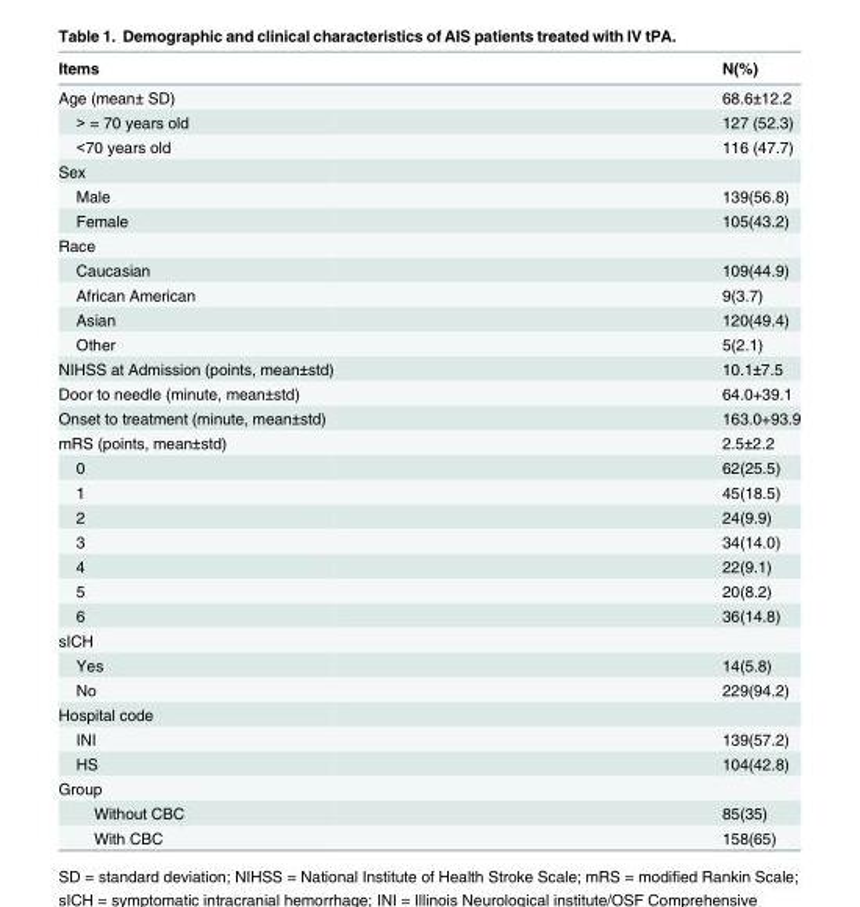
<table><thead><tr><td>Items</td><td>N(%)</td></tr></thead><tbody><tr><td>Age (mean± SD)</td><td>68.6±12.2</td></tr><tr><td>&gt; = 70 years old</td><td>127 (52.3)</td></tr><tr><td>&lt;70 years old</td><td>116 (47.7)</td></tr><tr><td colspan="2">Sex</td></tr><tr><td>Male</td><td>139(56.8)</td></tr><tr><td>Female</td><td>105(43.2)</td></tr><tr><td colspan="2">Race</td></tr><tr><td>Caucasian</td><td>109(44.9)</td></tr><tr><td>African American</td><td>9(3.7)</td></tr><tr><td>Asian</td><td>120(49.4)</td></tr><tr><td>Other</td><td>5(2.1)</td></tr><tr><td>NIHSS at Admission (points, mean±std)</td><td>10.1±7.5</td></tr><tr><td>Door to needle (minute, mean±std)</td><td>64.0+39.1</td></tr><tr><td>Onset to treatment (minute, mean±std)</td><td>163.0+93.9</td></tr><tr><td>mRS (points, mean±std)</td><td>2.5±2.2</td></tr><tr><td>0</td><td>62(25.5)</td></tr><tr><td>1</td><td>45(18.5)</td></tr><tr><td>2</td><td>24(9.9)</td></tr><tr><td>3</td><td>34(14.0)</td></tr><tr><td>4</td><td>22(9.1)</td></tr><tr><td>5</td><td>20(8.2)</td></tr><tr><td>6</td><td>36(14.8)</td></tr><tr><td colspan="2">sICH</td></tr><tr><td>Yes</td><td>14(5.8)</td></tr><tr><td>No</td><td>229(94.2)</td></tr><tr><td colspan="2">Hospital code</td></tr><tr><td>INI</td><td>139(57.2)</td></tr><tr><td>HS</td><td>104(42.8)</td></tr><tr><td colspan="2">Group</td></tr><tr><td>Without CBC</td><td>85(35)</td></tr><tr><td>With CBC</td><td>158(65)</td></tr></tbody></table>